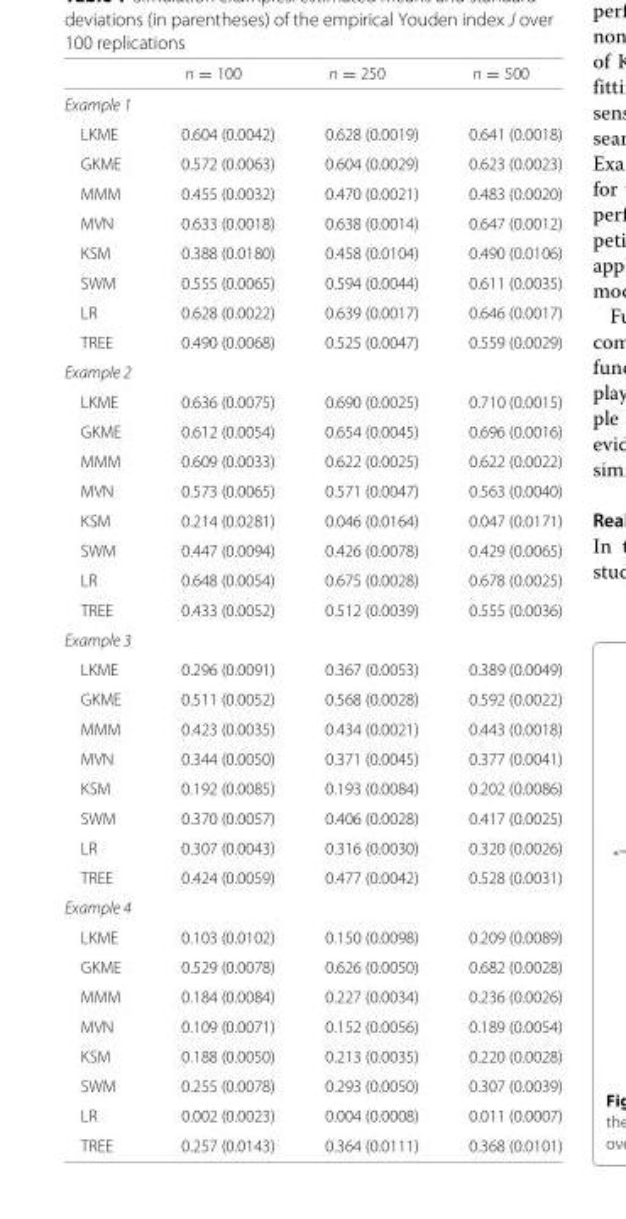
<table><thead><tr><td></td><td>n = 100</td><td>n = 250</td><td>n = 500</td></tr></thead><tbody><tr><td colspan="4">Example 1</td></tr><tr><td>LKME</td><td>0.604 (0.0042)</td><td>0.628 (0.0019)</td><td>0.641 (0.0018)</td></tr><tr><td>GKME</td><td>0.572 (0.0063)</td><td>0.604 (0.0029)</td><td>0.623 (0.0023)</td></tr><tr><td>MMM</td><td>0.455 (0.0032)</td><td>0.470 (0.0021)</td><td>0.483 (0.0020)</td></tr><tr><td>MVN</td><td>0.633 (0.0018)</td><td>0.638 (0.0014)</td><td>0.647 (0.0012)</td></tr><tr><td>KSM</td><td>0.388 (0.0180)</td><td>0.458 (0.0104)</td><td>0.490 (0.0106)</td></tr><tr><td>SWM</td><td>0.555 (0.0065)</td><td>0.594 (0.0044)</td><td>0.611 (0.0035)</td></tr><tr><td>LR</td><td>0.628 (0.0022)</td><td>0.639 (0.0017)</td><td>0.646 (0.0017)</td></tr><tr><td>TREE</td><td>0.490 (0.0068)</td><td>0.525 (0.0047)</td><td>0.559 (0.0029)</td></tr><tr><td colspan="4">Example 2</td></tr><tr><td>LKME</td><td>0.636 (0.0075)</td><td>0.690 (0.0025)</td><td>0.710 (0.0015)</td></tr><tr><td>GKME</td><td>0.612 (0.0054)</td><td>0.654 (0.0045)</td><td>0.696 (0.0016)</td></tr><tr><td>MMM</td><td>0.609 (0.0033)</td><td>0.622 (0.0025)</td><td>0.622 (0.0022)</td></tr><tr><td>MVN</td><td>0.573 (0.0065)</td><td>0.571 (0.0047)</td><td>0.563 (0.0040)</td></tr><tr><td>KSM</td><td>0.214 (0.0281)</td><td>0.046 (0.0164)</td><td>0.047 (0.0171)</td></tr><tr><td>SWM</td><td>0.447 (0.0094)</td><td>0.426 (0.0078)</td><td>0.429 (0.0065)</td></tr><tr><td>LR</td><td>0.648 (0.0054)</td><td>0.675 (0.0028)</td><td>0.678 (0.0025)</td></tr><tr><td>TREE</td><td>0.433 (0.0052)</td><td>0.512 (0.0039)</td><td>0.555 (0.0036)</td></tr><tr><td colspan="4">Example 3</td></tr><tr><td>LKME</td><td>0.296 (0.0091)</td><td>0.367 (0.0053)</td><td>0.389 (0.0049)</td></tr><tr><td>GKME</td><td>0.511 (0.0052)</td><td>0.568 (0.0028)</td><td>0.592 (0.0022)</td></tr><tr><td>MMM</td><td>0.423 (0.0035)</td><td>0.434 (0.0021)</td><td>0.443 (0.0018)</td></tr><tr><td>MVN</td><td>0.344 (0.0050)</td><td>0.371 (0.0045)</td><td>0.377 (0.0041)</td></tr><tr><td>KSM</td><td>0.192 (0.0085)</td><td>0.193 (0.0084)</td><td>0.202 (0.0086)</td></tr><tr><td>SWM</td><td>0.370 (0.0057)</td><td>0.406 (0.0028)</td><td>0.417 (0.0025)</td></tr><tr><td>LR</td><td>0.307 (0.0043)</td><td>0.316 (0.0030)</td><td>0.320 (0.0026)</td></tr><tr><td>TREE</td><td>0.424 (0.0059)</td><td>0.477 (0.0042)</td><td>0.528 (0.0031)</td></tr><tr><td colspan="4">Example 4</td></tr><tr><td>LKME</td><td>0.103 (0.0102)</td><td>0.150 (0.0098)</td><td>0.209 (0.0089)</td></tr><tr><td>GKME</td><td>0.529 (0.0078)</td><td>0.626 (0.0050)</td><td>0.682 (0.0028)</td></tr><tr><td>MMM</td><td>0.184 (0.0084)</td><td>0.227 (0.0034)</td><td>0.236 (0.0026)</td></tr><tr><td>MVN</td><td>0.109 (0.0071)</td><td>0.152 (0.0056)</td><td>0.189 (0.0054)</td></tr><tr><td>KSM</td><td>0.188 (0.0050)</td><td>0.213 (0.0035)</td><td>0.220 (0.0028)</td></tr><tr><td>SWM</td><td>0.255 (0.0078)</td><td>0.293 (0.0050)</td><td>0.307 (0.0039)</td></tr><tr><td>LR</td><td>0.002 (0.0023)</td><td>0.004 (0.0008)</td><td>0.011 (0.0007)</td></tr><tr><td>TREE</td><td>0.257 (0.0143)</td><td>0.364 (0.0111)</td><td>0.368 (0.0101)</td></tr></tbody></table>